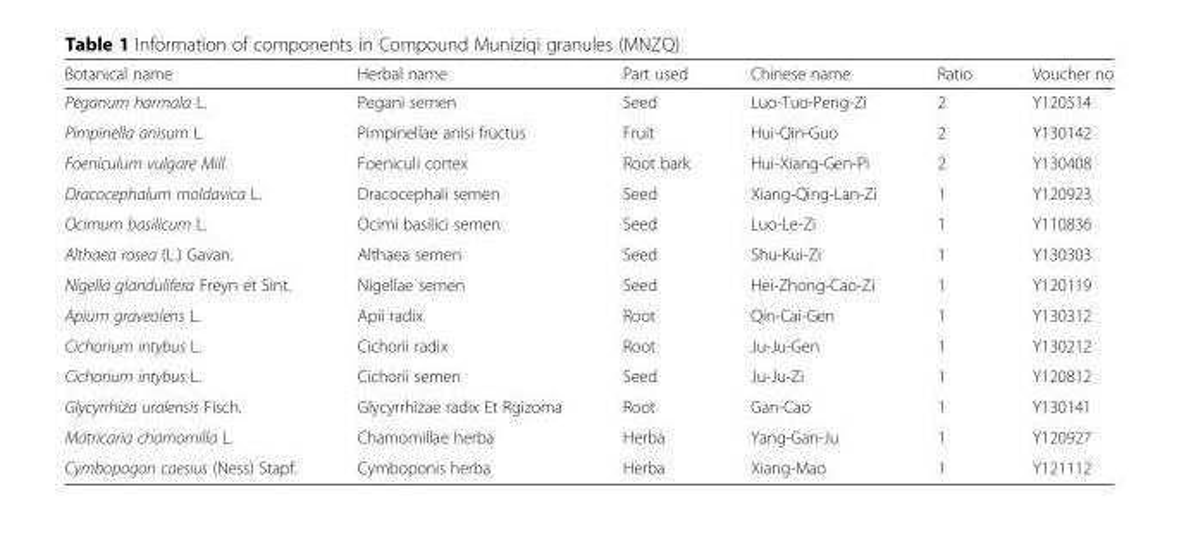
<table><thead><tr><td>Botanical name</td><td>Herbal name</td><td>Part used</td><td>Chinese name</td><td>Ratio</td><td>Voucher no</td></tr></thead><tbody><tr><td>Peganum harmala L.</td><td>Pegani semen</td><td>Seed</td><td>Luo-Tuo-Peng-Zi</td><td>2</td><td>Y120514</td></tr><tr><td>Pimpinella anisum L.</td><td>Pimpinellae anisi fructus</td><td>Fruit</td><td>Hui-Qin-Guo</td><td>2</td><td>Y130142</td></tr><tr><td>Foeniculum vulgare Mill.</td><td>Foeniculi cortex</td><td>Root bark</td><td>Hui-Xiang-Gen-Pi</td><td>2</td><td>Y130408</td></tr><tr><td>Dracocephalum moldavica L.</td><td>Dracocephali semen</td><td>Seed</td><td>Xiang-Qing-Lan-Zi</td><td>1</td><td>Y120923</td></tr><tr><td>Ocimum basilicum L.</td><td>Ocimi basilici semen</td><td>Seed</td><td>Luo-Le-Zi</td><td>1</td><td>Y110836</td></tr><tr><td>Althaea rosea (L.) Gavan.</td><td>Althaea semen</td><td>Seed</td><td>Shu-Kui-Zi</td><td>1</td><td>Y130303</td></tr><tr><td>Nigella glandulifera Freyn et Sint.</td><td>Nigellae semen</td><td>Seed</td><td>Hei-Zhong-Cao-Zi</td><td>1</td><td>Y120119</td></tr><tr><td>Apium graveolens L.</td><td>Apii radix</td><td>Root</td><td>Qin-Cai-Gen</td><td>1</td><td>Y130312</td></tr><tr><td>Cichorium intybus L.</td><td>Cichorii radix</td><td>Root</td><td>Ju-Ju-Gen</td><td>1</td><td>Y130212</td></tr><tr><td>Cichorium intybus L.</td><td>Cichorii semen</td><td>Seed</td><td>Ju-Ju-Zi</td><td>1</td><td>Y120812</td></tr><tr><td>Glycyrrhiza uralensis Fisch.</td><td>Glycyrrhizae radix Et Rgizoma</td><td>Root</td><td>Gan-Cao</td><td>1</td><td>Y130141</td></tr><tr><td>Matricaria chamomilla L.</td><td>Chamomillae herba</td><td>Herba</td><td>Yang-Gan-Ju</td><td>1</td><td>Y120927</td></tr><tr><td>Cymbopogon caesius (Ness) Stapf.</td><td>Cymboponis herba</td><td>Herba</td><td>Xiang-Mao</td><td>1</td><td>Y121112</td></tr></tbody></table>